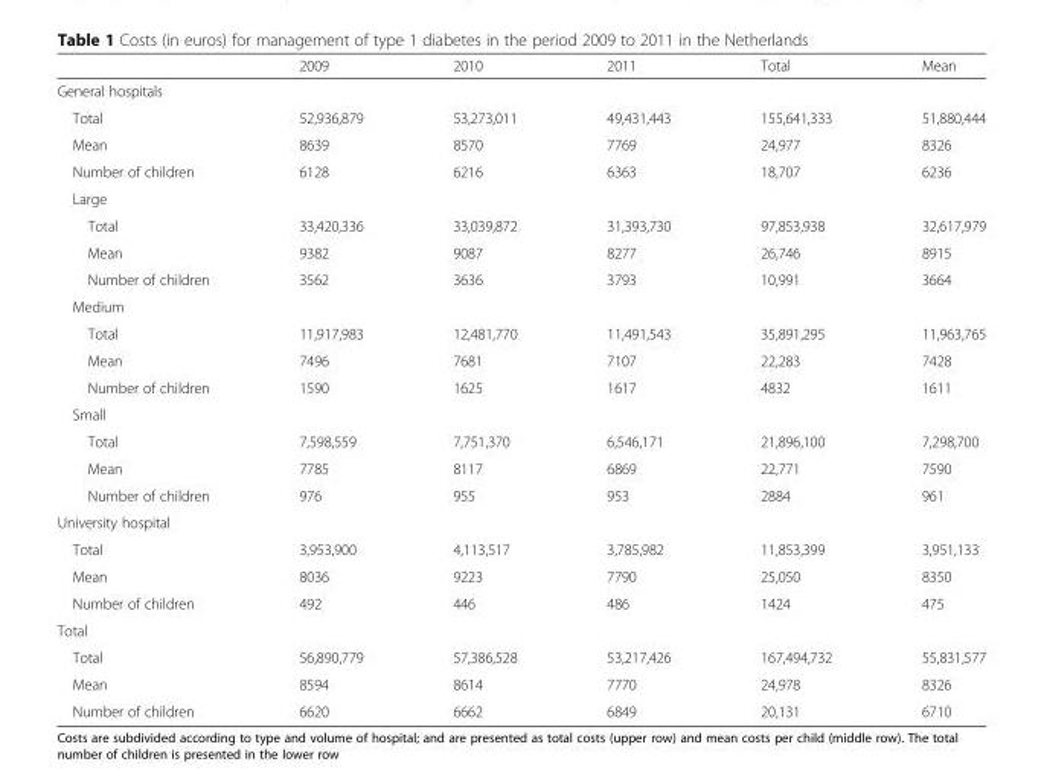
<table><thead><tr><td></td><td>2009</td><td>2010</td><td>2011</td><td>Total</td><td>Mean</td></tr></thead><tbody><tr><td colspan="6">General hospitals</td></tr><tr><td>Total</td><td>52,936,879</td><td>53,273,011</td><td>49,431,443</td><td>155,641,333</td><td>51,880,444</td></tr><tr><td>Mean</td><td>8639</td><td>8570</td><td>7769</td><td>24,977</td><td>8326</td></tr><tr><td>Number of children</td><td>6128</td><td>6216</td><td>6363</td><td>18,707</td><td>6236</td></tr><tr><td colspan="6">Large</td></tr><tr><td>Total</td><td>33,420,336</td><td>33,039,872</td><td>31,393,730</td><td>97,853,938</td><td>32,617,979</td></tr><tr><td>Mean</td><td>9382</td><td>9087</td><td>8277</td><td>26,746</td><td>8915</td></tr><tr><td>Number of children</td><td>3562</td><td>3636</td><td>3793</td><td>10,991</td><td>3664</td></tr><tr><td colspan="6">Medium</td></tr><tr><td>Total</td><td>11,917,983</td><td>12,481,770</td><td>11,491,543</td><td>35,891,295</td><td>11,963,765</td></tr><tr><td>Mean</td><td>7496</td><td>7681</td><td>7107</td><td>22,283</td><td>7428</td></tr><tr><td>Number of children</td><td>1590</td><td>1625</td><td>1617</td><td>4832</td><td>1611</td></tr><tr><td colspan="6">Small</td></tr><tr><td>Total</td><td>7,598,559</td><td>7,751,370</td><td>6,546,171</td><td>21,896,100</td><td>7,298,700</td></tr><tr><td>Mean</td><td>7785</td><td>8117</td><td>6869</td><td>22,771</td><td>7590</td></tr><tr><td>Number of children</td><td>976</td><td>955</td><td>953</td><td>2884</td><td>961</td></tr><tr><td colspan="6">University hospital</td></tr><tr><td>Total</td><td>3,953,900</td><td>4,113,517</td><td>3,785,982</td><td>11,853,399</td><td>3,951,133</td></tr><tr><td>Mean</td><td>8036</td><td>9223</td><td>7790</td><td>25,050</td><td>8350</td></tr><tr><td>Number of children</td><td>492</td><td>446</td><td>486</td><td>1424</td><td>475</td></tr><tr><td colspan="6">Total</td></tr><tr><td>Total</td><td>56,890,779</td><td>57,386,528</td><td>53,217,426</td><td>167,494,732</td><td>55,831,577</td></tr><tr><td>Mean</td><td>8594</td><td>8614</td><td>7770</td><td>24,978</td><td>8326</td></tr><tr><td>Number of children</td><td>6620</td><td>6662</td><td>6849</td><td>20,131</td><td>6710</td></tr></tbody></table>